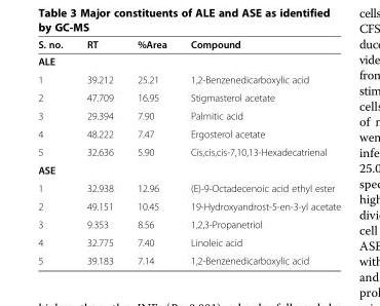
<table><thead><tr><td>S. no.</td><td>RT</td><td>%Area</td><td>Compound</td></tr></thead><tbody><tr><td colspan="4">ALE</td></tr><tr><td>1</td><td>39.212</td><td>25.21</td><td>1,2-Benzenedicarboxylic acid</td></tr><tr><td>2</td><td>47.709</td><td>16.95</td><td>Stigmasterol acetate</td></tr><tr><td>3</td><td>29.394</td><td>7.90</td><td>Palmitic acid</td></tr><tr><td>4</td><td>48.222</td><td>7.47</td><td>Ergosterol acetate</td></tr><tr><td>5</td><td>32.636</td><td>5.90</td><td>Cis,cis,cis-7,10,13-Hexadecatrienal</td></tr><tr><td colspan="4">ASE</td></tr><tr><td>1</td><td>32.938</td><td>12.96</td><td>(E)-9-Octadecenoic acid ethyl ester</td></tr><tr><td>2</td><td>49.151</td><td>10.45</td><td>19-Hydroxyandrost-5-en-3-yl acetate</td></tr><tr><td>3</td><td>9.353</td><td>8.56</td><td>1,2,3-Propanetriol</td></tr><tr><td>4</td><td>32.775</td><td>7.40</td><td>Linoleic acid</td></tr><tr><td>5</td><td>39.183</td><td>7.14</td><td>1,2-Benzenedicarboxylic acid</td></tr></tbody></table>